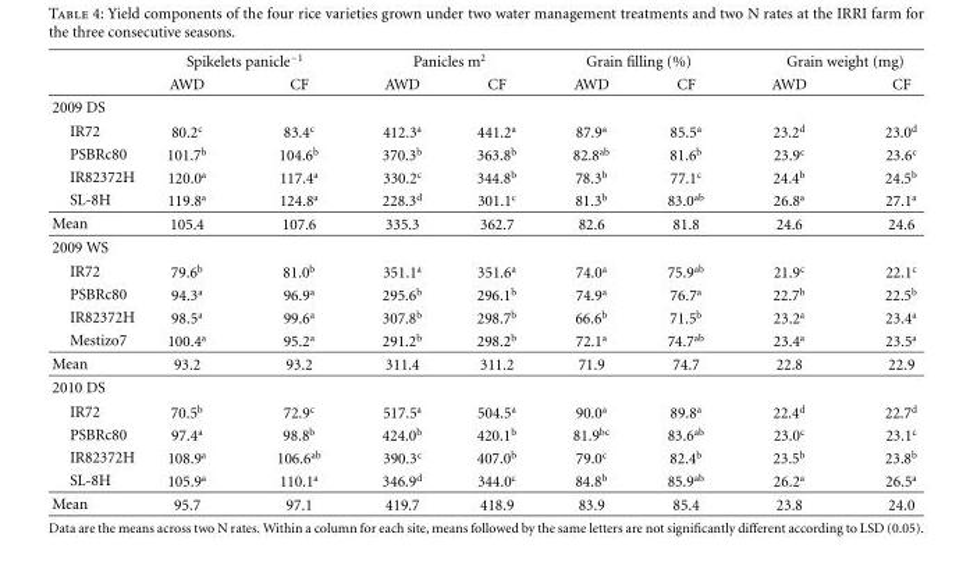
<table><thead><tr><td rowspan="2"></td><td colspan="2">Spikelets panicle<sup>−1</sup></td><td colspan="2">Panicles m<sup>2</sup></td><td colspan="2">Grain filling (%)</td><td colspan="2">Grain weight (mg)</td></tr><tr><td>AWD</td><td>CF</td><td>AWD</td><td>CF</td><td>AWD</td><td>CF</td><td>AWD</td><td>CF</td></tr></thead><tbody><tr><td colspan="9">2009 DS</td></tr><tr><td>IR72</td><td>80.2<sup>c</sup></td><td>83.4<sup>c</sup></td><td>412.3<sup>a</sup></td><td>441.2<sup>a</sup></td><td>87.9<sup>a</sup></td><td>85.5<sup>a</sup></td><td>23.2<sup>d</sup></td><td>23.0<sup>d</sup></td></tr><tr><td>PSBRc80</td><td>101.7<sup>b</sup></td><td>104.6<sup>b</sup></td><td>370.3<sup>b</sup></td><td>363.8<sup>b</sup></td><td>82.8<sup>ab</sup></td><td>81.6<sup>b</sup></td><td>23.9<sup>c</sup></td><td>23.6<sup>c</sup></td></tr><tr><td>IR82372H</td><td>120.0<sup>a</sup></td><td>117.4<sup>a</sup></td><td>330.2<sup>c</sup></td><td>344.8<sup>b</sup></td><td>78.3<sup>b</sup></td><td>77.1<sup>c</sup></td><td>24.4<sup>b</sup></td><td>24.5<sup>b</sup></td></tr><tr><td>SL-8H</td><td>119.8<sup>a</sup></td><td>124.8<sup>a</sup></td><td>228.3<sup>d</sup></td><td>301.1<sup>c</sup></td><td>81.3<sup>b</sup></td><td>83.0<sup>ab</sup></td><td>26.8<sup>a</sup></td><td>27.1<sup>a</sup></td></tr><tr><td>Mean</td><td>105.4</td><td>107.6</td><td>335.3</td><td>362.7</td><td>82.6</td><td>81.8</td><td>24.6</td><td>24.6</td></tr><tr><td colspan="9">2009 WS</td></tr><tr><td>IR72</td><td>79.6<sup>b</sup></td><td>81.0<sup>b</sup></td><td>351.1<sup>a</sup></td><td>351.6<sup>a</sup></td><td>74.0<sup>a</sup></td><td>75.9<sup>ab</sup></td><td>21.9<sup>c</sup></td><td>22.1<sup>c</sup></td></tr><tr><td>PSBRc80</td><td>94.3<sup>a</sup></td><td>96.9<sup>a</sup></td><td>295.6<sup>b</sup></td><td>296.1<sup>b</sup></td><td>74.9<sup>a</sup></td><td>76.7<sup>a</sup></td><td>22.7<sup>b</sup></td><td>22.5<sup>b</sup></td></tr><tr><td>IR82372H</td><td>98.5<sup>a</sup></td><td>99.6<sup>a</sup></td><td>307.8<sup>b</sup></td><td>298.7<sup>b</sup></td><td>66.6<sup>b</sup></td><td>71.5<sup>b</sup></td><td>23.2<sup>a</sup></td><td>23.4<sup>a</sup></td></tr><tr><td>Mestizo7</td><td>100.4<sup>a</sup></td><td>95.2<sup>a</sup></td><td>291.2<sup>b</sup></td><td>298.2<sup>b</sup></td><td>72.1<sup>a</sup></td><td>74.7<sup>ab</sup></td><td>23.4<sup>a</sup></td><td>23.5<sup>a</sup></td></tr><tr><td>Mean</td><td>93.2</td><td>93.2</td><td>311.4</td><td>311.2</td><td>71.9</td><td>74.7</td><td>22.8</td><td>22.9</td></tr><tr><td colspan="9">2010 DS</td></tr><tr><td>IR72</td><td>70.5<sup>b</sup></td><td>72.9<sup>c</sup></td><td>517.5<sup>a</sup></td><td>504.5<sup>a</sup></td><td>90.0<sup>a</sup></td><td>89.8<sup>a</sup></td><td>22.4<sup>d</sup></td><td>22.7<sup>d</sup></td></tr><tr><td>PSBRc80</td><td>97.4<sup>a</sup></td><td>98.8<sup>b</sup></td><td>424.0<sup>b</sup></td><td>420.1<sup>b</sup></td><td>81.9<sup>bc</sup></td><td>83.6<sup>ab</sup></td><td>23.0<sup>c</sup></td><td>23.1<sup>c</sup></td></tr><tr><td>IR82372H</td><td>108.9<sup>a</sup></td><td>106.6<sup>ab</sup></td><td>390.3<sup>c</sup></td><td>407.0<sup>b</sup></td><td>79.0<sup>c</sup></td><td>82.4<sup>b</sup></td><td>23.5<sup>b</sup></td><td>23.8<sup>b</sup></td></tr><tr><td>SL-8H</td><td>105.9<sup>a</sup></td><td>110.1<sup>a</sup></td><td>346.9<sup>d</sup></td><td>344.0<sup>c</sup></td><td>84.8<sup>b</sup></td><td>85.9<sup>ab</sup></td><td>26.2<sup>a</sup></td><td>26.5<sup>a</sup></td></tr><tr><td>Mean</td><td>95.7</td><td>97.1</td><td>419.7</td><td>418.9</td><td>83.9</td><td>85.4</td><td>23.8</td><td>24.0</td></tr></tbody></table>